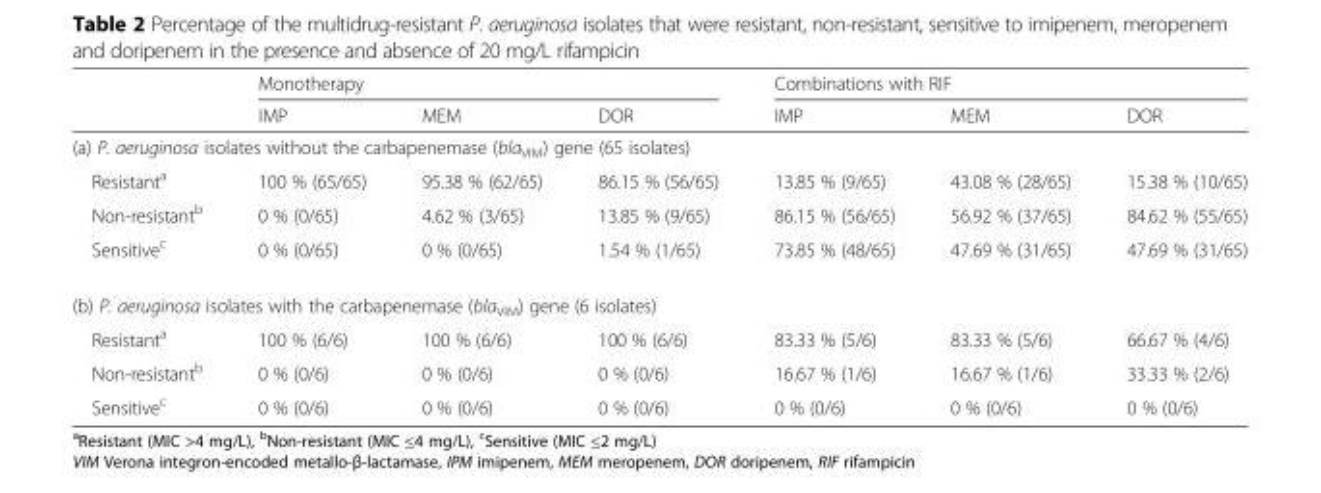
<table><thead><tr><td rowspan="2"></td><td colspan="3">Monotherapy</td><td colspan="3">Combinations with RIF</td></tr><tr><td>IMP</td><td>MEM</td><td>DOR</td><td>IMP</td><td>MEM</td><td>DOR</td></tr></thead><tbody><tr><td colspan="7">(a) P. aeruginosa isolates without the carbapenemase (bla<sub>VIM</sub>) gene (65 isolates)</td></tr><tr><td>Resistant<sup>a</sup></td><td>100 % (65/65)</td><td>95.38 % (62/65)</td><td>86.15 % (56/65)</td><td>13.85 % (9/65)</td><td>43.08 % (28/65)</td><td>15.38 % (10/65)</td></tr><tr><td>Non-resistant<sup>b</sup></td><td>0 % (0/65)</td><td>4.62 % (3/65)</td><td>13.85 % (9/65)</td><td>86.15 % (56/65)</td><td>56.92 % (37/65)</td><td>84.62 % (55/65)</td></tr><tr><td>Sensitive<sup>c</sup></td><td>0 % (0/65)</td><td>0 % (0/65)</td><td>1.54 % (1/65)</td><td>73.85 % (48/65)</td><td>47.69 % (31/65)</td><td>47.69 % (31/65)</td></tr><tr><td colspan="7">(b) P. aeruginosa isolates with the carbapenemase (bla<sub>VIM</sub>) gene (6 isolates)</td></tr><tr><td>Resistant<sup>a</sup></td><td>100 % (6/6)</td><td>100 % (6/6)</td><td>100 % (6/6)</td><td>83.33 % (5/6)</td><td>83.33 % (5/6)</td><td>66.67 % (4/6)</td></tr><tr><td>Non-resistant<sup>b</sup></td><td>0 % (0/6)</td><td>0 % (0/6)</td><td>0 % (0/6)</td><td>16.67 % (1/6)</td><td>16.67 % (1/6)</td><td>33.33 % (2/6)</td></tr><tr><td>Sensitive<sup>c</sup></td><td>0 % (0/6)</td><td>0 % (0/6)</td><td>0 % (0/6)</td><td>0 % (0/6)</td><td>0 % (0/6)</td><td>0 % (0/6)</td></tr></tbody></table>